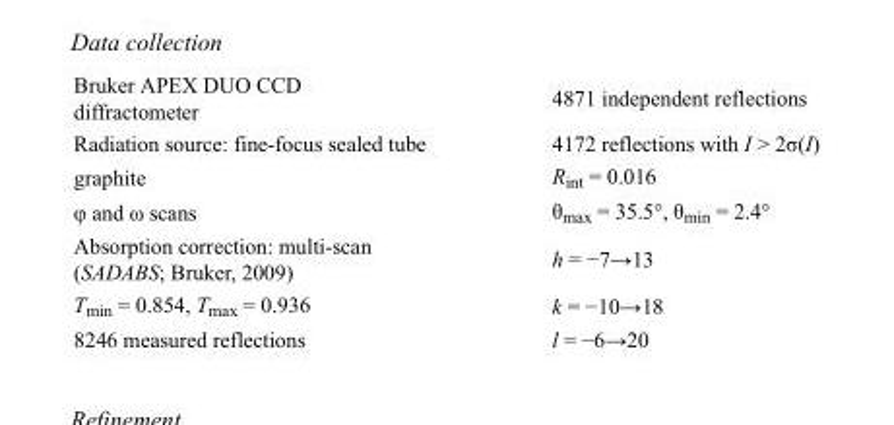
<table><tbody><tr><td>Bruker APEX DUO CCD diffractometer</td><td>4871 independent reflections</td></tr><tr><td>Radiation source: fine-focus sealed tube</td><td>4172 reflections with I &gt; 2σ(I)</td></tr><tr><td>graphite</td><td>R<sub>int</sub> = 0.016</td></tr><tr><td>φ and ω scans</td><td>θ<sub>max</sub> = 35.5°, θ<sub>min</sub> = 2.4°</td></tr><tr><td>Absorption correction: multi-scan (SADABS; Bruker, 2009)</td><td>h = −7→13</td></tr><tr><td>T<sub>min</sub> = 0.854, T<sub>max</sub> = 0.936</td><td>k = −10→18</td></tr><tr><td>8246 measured reflections</td><td>l = −6→20</td></tr></tbody></table>